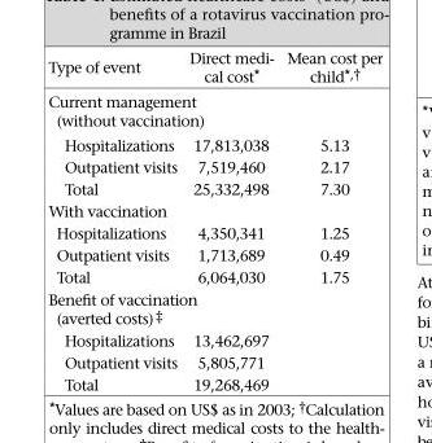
<table><thead><tr><td>Type of event</td><td>Direct medi- cal cost*</td><td>Mean cost per child*,†</td></tr></thead><tbody><tr><td colspan="3">Current management (without vaccination)</td></tr><tr><td>Hospitalizations</td><td>17,813,038</td><td>5.13</td></tr><tr><td>Outpatient visits</td><td>7,519,460</td><td>2.17</td></tr><tr><td>Total</td><td>25,332,498</td><td>7.30</td></tr><tr><td colspan="3">With vaccination</td></tr><tr><td>Hospitalizations</td><td>4,350,341</td><td>1.25</td></tr><tr><td>Outpatient visits</td><td>1,713,689</td><td>0.49</td></tr><tr><td>Total</td><td>6,064,030</td><td>1.75</td></tr><tr><td colspan="3">Benefit of vaccination (averted costs) ‡</td></tr><tr><td>Hospitalizations</td><td>13,462,697</td><td></td></tr><tr><td>Outpatient visits</td><td>5,805,771</td><td></td></tr><tr><td>Total</td><td>19,268,469</td><td></td></tr></tbody></table>